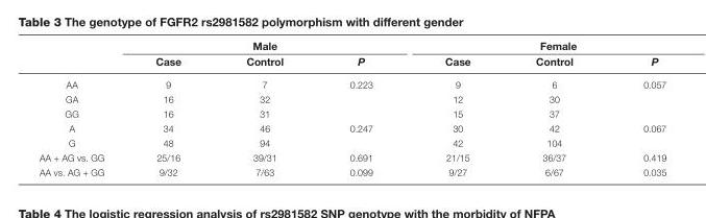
<table><thead><tr><td rowspan="2"></td><td colspan="3">Male</td><td colspan="3">Female</td></tr><tr><td>Case</td><td>Control</td><td>P</td><td>Case</td><td>Control</td><td>P</td></tr></thead><tbody><tr><td>AA</td><td>9</td><td>7</td><td>0.223</td><td>9</td><td>6</td><td>0.057</td></tr><tr><td>GA</td><td>16</td><td>32</td><td></td><td>12</td><td>30</td><td></td></tr><tr><td>GG</td><td>16</td><td>31</td><td></td><td>15</td><td>37</td><td></td></tr><tr><td>A</td><td>34</td><td>46</td><td>0.247</td><td>30</td><td>42</td><td>0.067</td></tr><tr><td>G</td><td>48</td><td>94</td><td></td><td>42</td><td>104</td><td></td></tr><tr><td>AA + AG vs. GG</td><td>25/16</td><td>39/31</td><td>0.691</td><td>21/15</td><td>36/37</td><td>0.419</td></tr><tr><td>AA vs. AG + GG</td><td>9/32</td><td>7/63</td><td>0.099</td><td>9/27</td><td>6/67</td><td>0.035</td></tr></tbody></table>